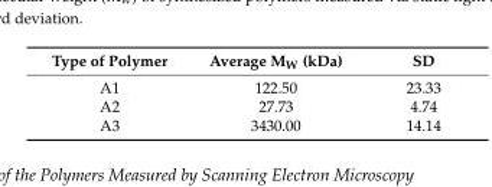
<table><thead><tr><td>Type of Polymer</td><td>Average M<sub>W</sub> (kDa)</td><td>SD</td></tr></thead><tbody><tr><td>A1</td><td>122.50</td><td>23.33</td></tr><tr><td>A2</td><td>27.73</td><td>4.74</td></tr><tr><td>A3</td><td>3430.00</td><td>14.14</td></tr></tbody></table>